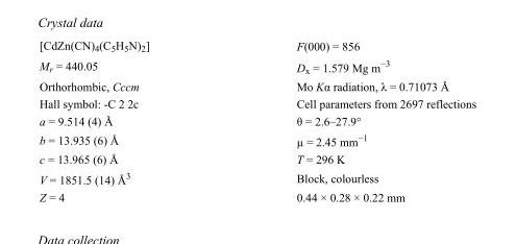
<table><tbody><tr><td>[CdZn(CN)<sub>4</sub>(C<sub>5</sub>H<sub>5</sub>N)<sub>2</sub>]</td><td>F(000) = 856</td></tr><tr><td>M<sub>r</sub> = 440.05</td><td>D<sub>x</sub> = 1.579 Mg m<sup>−3</sup></td></tr><tr><td>Orthorhombic, Cccm</td><td>Mo Kα radiation, λ = 0.71073 Å</td></tr><tr><td>Hall symbol: -C 2 2c</td><td>Cell parameters from 2697 reflections</td></tr><tr><td>a = 9.514 (4) Å</td><td>θ = 2.6–27.9°</td></tr><tr><td>b = 13.935 (6) Å</td><td>µ = 2.45 mm<sup>−1</sup></td></tr><tr><td>c = 13.965 (6) Å</td><td>T = 296 K</td></tr><tr><td>V = 1851.5 (14) Å<sup>3</sup></td><td>Block, colourless</td></tr><tr><td>Z = 4</td><td>0.44 × 0.28 × 0.22 mm</td></tr></tbody></table>